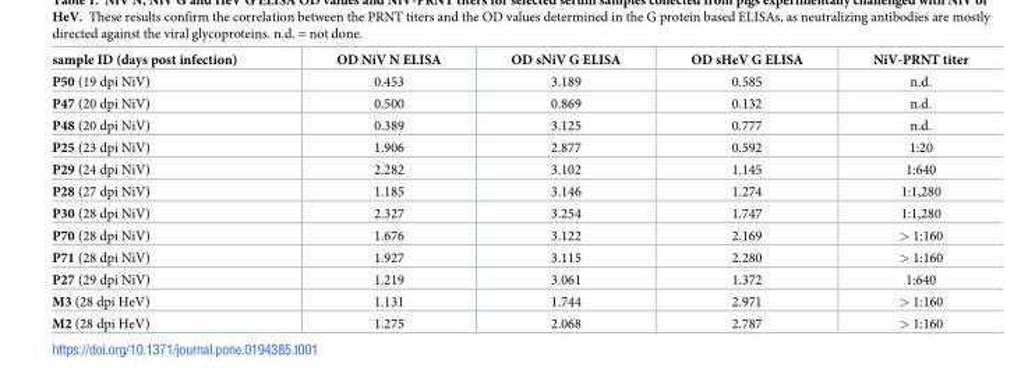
<table><thead><tr><td>sample ID (days post infection)</td><td>OD NiV N ELISA</td><td>OD sNiV G ELISA</td><td>OD sHeV G ELISA</td><td>NiV-PRNT titer</td></tr></thead><tbody><tr><td>P50 (19 dpi NiV)</td><td>0.453</td><td>3.189</td><td>0.585</td><td>n.d.</td></tr><tr><td>P47 (20 dpi NiV)</td><td>0.500</td><td>0.869</td><td>0.132</td><td>n.d.</td></tr><tr><td>P48 (20 dpi NiV)</td><td>0.389</td><td>3.125</td><td>0.777</td><td>n.d.</td></tr><tr><td>P25 (23 dpi NiV)</td><td>1.906</td><td>2.877</td><td>0.592</td><td>1:20</td></tr><tr><td>P29 (24 dpi NiV)</td><td>2.282</td><td>3.102</td><td>1.145</td><td>1:640</td></tr><tr><td>P28 (27 dpi NiV)</td><td>1.185</td><td>3.146</td><td>1.274</td><td>1:1,280</td></tr><tr><td>P30 (28 dpi NiV)</td><td>2.327</td><td>3.254</td><td>1.747</td><td>1:1,280</td></tr><tr><td>P70 (28 dpi NiV)</td><td>1.676</td><td>3.122</td><td>2.169</td><td>&gt; 1:160</td></tr><tr><td>P71 (28 dpi NiV)</td><td>1.927</td><td>3.115</td><td>2.280</td><td>&gt; 1:160</td></tr><tr><td>P27 (29 dpi NiV)</td><td>1.219</td><td>3.061</td><td>1.372</td><td>1:640</td></tr><tr><td>M3 (28 dpi HeV)</td><td>1.131</td><td>1.744</td><td>2.971</td><td>&gt; 1:160</td></tr><tr><td>M2 (28 dpi HeV)</td><td>1.275</td><td>2.068</td><td>2.787</td><td>&gt; 1:160</td></tr></tbody></table>